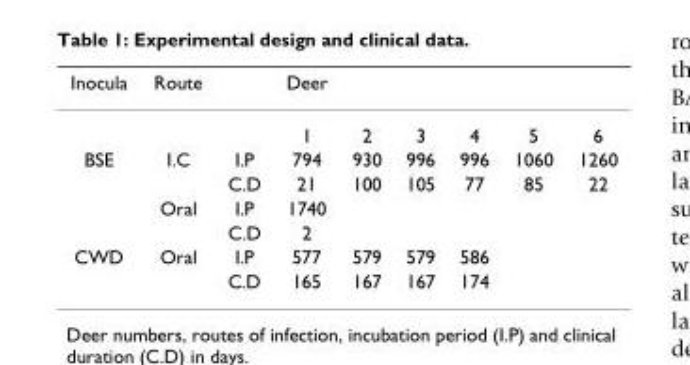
<table><thead><tr><td>Inocula</td><td>Route</td><td></td><td>Deer</td><td></td><td></td><td></td><td></td><td></td></tr></thead><tbody><tr><td></td><td></td><td></td><td>1</td><td>2</td><td>3</td><td>4</td><td>5</td><td>6</td></tr><tr><td rowspan="4">BSE</td><td>I.C</td><td>I.P</td><td>794</td><td>930</td><td>996</td><td>996</td><td>1060</td><td>1260</td></tr><tr><td></td><td>C.D</td><td>21</td><td>100</td><td>105</td><td>77</td><td>85</td><td>22</td></tr><tr><td>Oral</td><td>I.P</td><td>1740</td><td></td><td></td><td></td><td></td><td></td></tr><tr><td></td><td>C.D</td><td>2</td><td></td><td></td><td></td><td></td><td></td></tr><tr><td rowspan="2">CWD</td><td>Oral</td><td>I.P</td><td>577</td><td>579</td><td>579</td><td>586</td><td></td><td></td></tr><tr><td></td><td>C.D</td><td>165</td><td>167</td><td>167</td><td>174</td><td></td><td></td></tr></tbody></table>